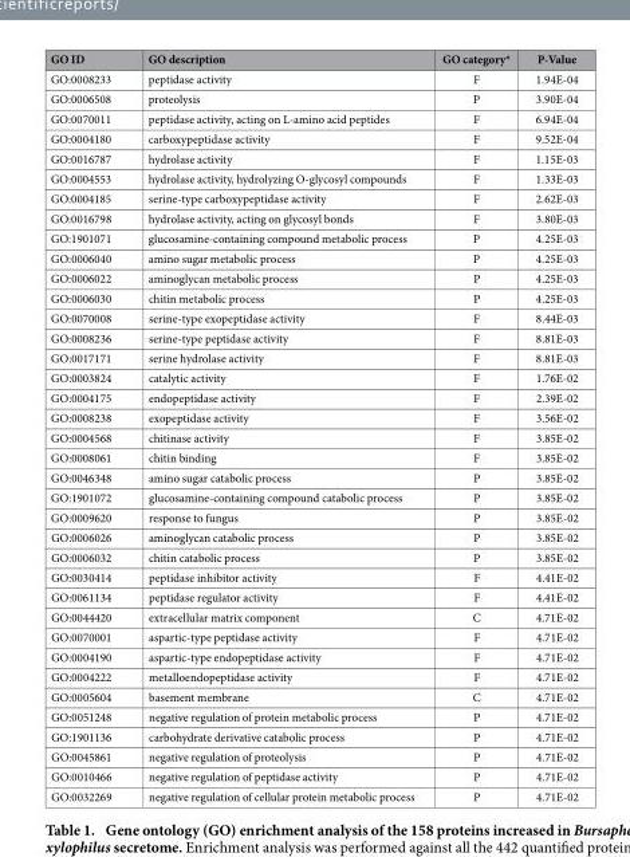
<table><thead><tr><td>GO ID</td><td>GO description</td><td>GO category*</td><td>P-Value</td></tr></thead><tbody><tr><td>GO:0008233</td><td>peptidase activity</td><td>F</td><td>1.94E-04</td></tr><tr><td>GO:0006508</td><td>proteolysis</td><td>P</td><td>3.90E-04</td></tr><tr><td>GO:0070011</td><td>peptidase activity, acting on L-amino acid peptides</td><td>F</td><td>6.94E-04</td></tr><tr><td>GO:0004180</td><td>carboxypeptidase activity</td><td>F</td><td>9.52E-04</td></tr><tr><td>GO:0016787</td><td>hydrolase activity</td><td>F</td><td>1.15E-03</td></tr><tr><td>GO:0004553</td><td>hydrolase activity, hydrolyzing O-glycosyl compounds</td><td>F</td><td>1.33E-03</td></tr><tr><td>GO:0004185</td><td>serine-type carboxypeptidase activity</td><td>F</td><td>2.62E-03</td></tr><tr><td>GO:0016798</td><td>hydrolase activity, acting on glycosyl bonds</td><td>F</td><td>3.80E-03</td></tr><tr><td>GO:1901071</td><td>glucosamine-containing compound metabolic process</td><td>P</td><td>4.25E-03</td></tr><tr><td>GO:0006040</td><td>amino sugar metabolic process</td><td>P</td><td>4.25E-03</td></tr><tr><td>GO:0006022</td><td>aminoglycan metabolic process</td><td>P</td><td>4.25E-03</td></tr><tr><td>GO:0006030</td><td>chitin metabolic process</td><td>P</td><td>4.25E-03</td></tr><tr><td>GO:0070008</td><td>serine-type exopeptidase activity</td><td>F</td><td>8.44E-03</td></tr><tr><td>GO:0008236</td><td>serine-type peptidase activity</td><td>F</td><td>8.81E-03</td></tr><tr><td>GO:0017171</td><td>serine hydrolase activity</td><td>F</td><td>8.81E-03</td></tr><tr><td>GO:0003824</td><td>catalytic activity</td><td>F</td><td>1.76E-02</td></tr><tr><td>GO:0004175</td><td>endopeptidase activity</td><td>F</td><td>2.39E-02</td></tr><tr><td>GO:0008238</td><td>exopeptidase activity</td><td>F</td><td>3.56E-02</td></tr><tr><td>GO:0004568</td><td>chitinase activity</td><td>F</td><td>3.85E-02</td></tr><tr><td>GO:0008061</td><td>chitin binding</td><td>F</td><td>3.85E-02</td></tr><tr><td>GO:0046348</td><td>amino sugar catabolic process</td><td>P</td><td>3.85E-02</td></tr><tr><td>GO:1901072</td><td>glucosamine-containing compound catabolic process</td><td>P</td><td>3.85E-02</td></tr><tr><td>GO:0009620</td><td>response to fungus</td><td>P</td><td>3.85E-02</td></tr><tr><td>GO:0006026</td><td>aminoglycan catabolic process</td><td>P</td><td>3.85E-02</td></tr><tr><td>GO:0006032</td><td>chitin catabolic process</td><td>P</td><td>3.85E-02</td></tr><tr><td>GO:0030414</td><td>peptidase inhibitor activity</td><td>F</td><td>4.41E-02</td></tr><tr><td>GO:0061134</td><td>peptidase regulator activity</td><td>F</td><td>4.41E-02</td></tr><tr><td>GO:0044420</td><td>extracellular matrix component</td><td>C</td><td>4.71E-02</td></tr><tr><td>GO:0070001</td><td>aspartic-type peptidase activity</td><td>F</td><td>4.71E-02</td></tr><tr><td>GO:0004190</td><td>aspartic-type endopeptidase activity</td><td>F</td><td>4.71E-02</td></tr><tr><td>GO:0004222</td><td>metalloendopeptidase activity</td><td>F</td><td>4.71E-02</td></tr><tr><td>GO:0005604</td><td>basement membrane</td><td>C</td><td>4.71E-02</td></tr><tr><td>GO:0051248</td><td>negative regulation of protein metabolic process</td><td>P</td><td>4.71E-02</td></tr><tr><td>GO:1901136</td><td>carbohydrate derivative catabolic process</td><td>P</td><td>4.71E-02</td></tr><tr><td>GO:0045861</td><td>negative regulation of proteolysis</td><td>P</td><td>4.71E-02</td></tr><tr><td>GO:0010466</td><td>negative regulation of peptidase activity</td><td>P</td><td>4.71E-02</td></tr><tr><td>GO:0032269</td><td>negative regulation of cellular protein metabolic process</td><td>P</td><td>4.71E-02</td></tr></tbody></table>